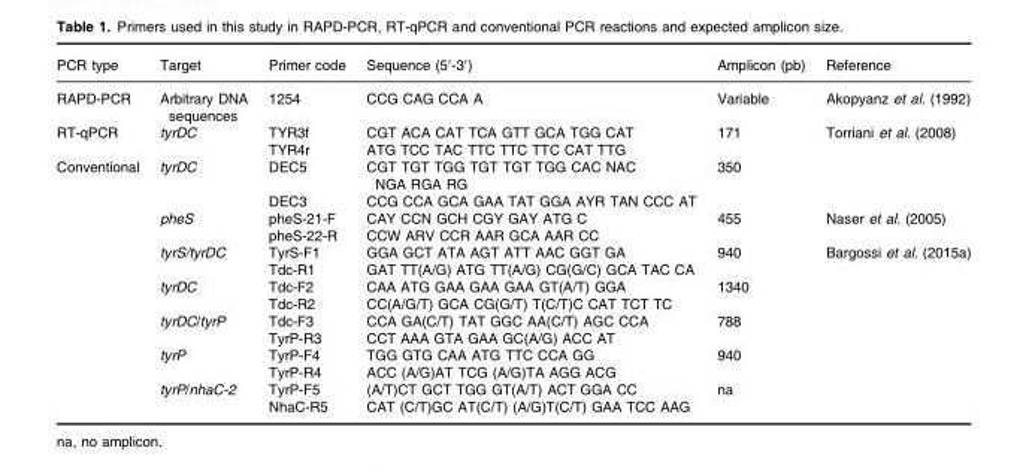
<table><thead><tr><td>PCR type</td><td>Target</td><td>Primer code</td><td>Sequence (5′-3′)</td><td>Amplicon (pb)</td><td>Reference</td></tr></thead><tbody><tr><td>RAPD-PCR</td><td>Arbitrary DNA sequences</td><td>1254</td><td>CCG CAG CCA A</td><td>Variable</td><td>Akopyanz et al. (1992)</td></tr><tr><td rowspan="2">RT-qPCR</td><td rowspan="2">tyrDC</td><td>TYR3f</td><td>CGT ACA CAT TCA GTT GCA TGG CAT</td><td rowspan="2">171</td><td rowspan="4">Torriani et al. (2008)</td></tr><tr><td>TYR4r</td><td>ATG TCC TAC TTC TTC TTC CAT TTG</td></tr><tr><td rowspan="14">Conventional</td><td rowspan="2">tyrDC</td><td>DEC5</td><td>CGT TGT TGG TGT TGT TGG CAC NAC NGA RGA RG</td><td rowspan="2">350</td></tr><tr><td>DEC3</td><td>CCG CCA GCA GAA TAT GGA AYR TAN CCC AT</td></tr><tr><td rowspan="2">pheS</td><td>pheS-21-F</td><td>CAY CCN GCH CGY GAY ATG C</td><td rowspan="2">455</td><td rowspan="2">Naser et al. (2005)</td></tr><tr><td>pheS-22-R</td><td>CCW ARV CCR AAR GCA AAR CC</td></tr><tr><td rowspan="2">tyrS/tyrDC</td><td>TyrS-F1</td><td>GGA GCT ATA AGT ATT AAC GGT GA</td><td rowspan="2">940</td><td rowspan="10">Bargossi et al. (2015a)</td></tr><tr><td>Tdc-R1</td><td>GAT TT(A/G) ATG TT(A/G) CG(G/C) GCA TAC CA</td></tr><tr><td rowspan="2">tyrDC</td><td>Tdc-F2</td><td>CAA ATG GAA GAA GAA GT(A/T) GGA</td><td rowspan="2">1340</td></tr><tr><td>Tdc-R2</td><td>CC(A/G/T) GCA CG(G/T) T(C/T)C CAT TCT TC</td></tr><tr><td rowspan="2">tyrDC/tyrP</td><td>Tdc-F3</td><td>CCA GA(C/T) TAT GGC AA(C/T) AGC CCA</td><td rowspan="2">788</td></tr><tr><td>TyrP-R3</td><td>CCT AAA GTA GAA GC(A/G) ACC AT</td></tr><tr><td rowspan="2">tyrP</td><td>TyrP-F4</td><td>TGG GTG CAA ATG TTC CCA GG</td><td rowspan="2">940</td></tr><tr><td>TyrP-R4</td><td>ACC (A/G)AT TCG (A/G)TA AGG ACG</td></tr><tr><td rowspan="2">tyrP/nhaC-2</td><td>TyrP-F5</td><td>(A/T)CT GCT TGG GT(A/T) ACT GGA CC</td><td rowspan="2">na</td></tr><tr><td>NhaC-R5</td><td>CAT (C/T)GC AT(C/T) (A/G)T(C/T) GAA TCC AAG</td></tr></tbody></table>